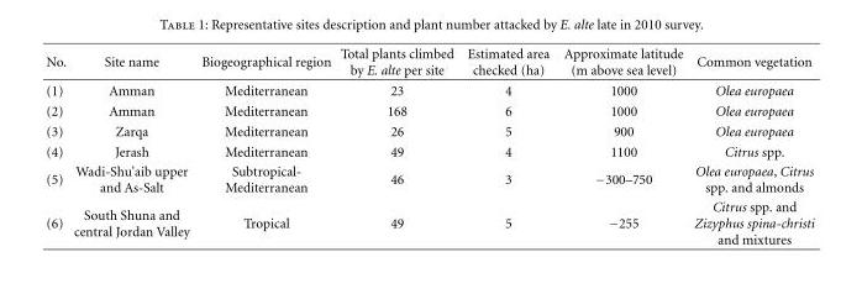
<table><thead><tr><td>No.</td><td>Site name</td><td>Biogeographical region</td><td>Total plants climbed by E. alte per site</td><td>Estimated area checked (ha)</td><td>Approximate latitude (m above sea level)</td><td>Common vegetation</td></tr></thead><tbody><tr><td>(1)</td><td>Amman</td><td>Mediterranean</td><td>23</td><td>4</td><td>1000</td><td>Olea europaea</td></tr><tr><td>(2)</td><td>Amman</td><td>Mediterranean</td><td>168</td><td>6</td><td>1000</td><td>Olea europaea</td></tr><tr><td>(3)</td><td>Zarqa</td><td>Mediterranean</td><td>26</td><td>5</td><td>900</td><td>Olea europaea</td></tr><tr><td>(4)</td><td>Jerash</td><td>Mediterranean</td><td>49</td><td>4</td><td>1100</td><td>Citrus spp.</td></tr><tr><td>(5)</td><td>Wadi-Shu’aib upper and As-Salt</td><td>Subtropical- Mediterranean</td><td>46</td><td>3</td><td>−300–750</td><td>Olea europaea, Citrus spp. and almonds</td></tr><tr><td>(6)</td><td>South Shuna and central Jordan Valley</td><td>Tropical</td><td>49</td><td>5</td><td>−255</td><td>Citrus spp. and Zizyphus spina-christi and mixtures</td></tr></tbody></table>